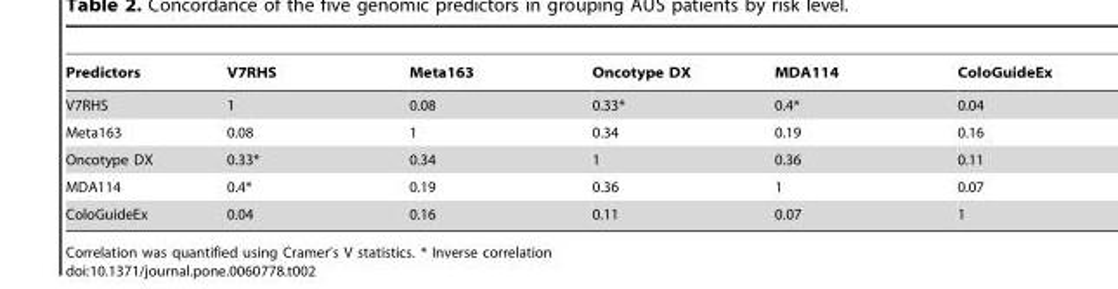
<table><thead><tr><td>Predictors</td><td>V7RHS</td><td>Meta163</td><td>Oncotype DX</td><td>MDA114</td><td>ColoGuideEx</td></tr></thead><tbody><tr><td>V7RHS</td><td>1</td><td>0.08</td><td>0.33*</td><td>0.4*</td><td>0.04</td></tr><tr><td>Meta163</td><td>0.08</td><td>1</td><td>0.34</td><td>0.19</td><td>0.16</td></tr><tr><td>Oncotype DX</td><td>0.33*</td><td>0.34</td><td>1</td><td>0.36</td><td>0.11</td></tr><tr><td>MDA114</td><td>0.4*</td><td>0.19</td><td>0.36</td><td>1</td><td>0.07</td></tr><tr><td>ColoGuideEx</td><td>0.04</td><td>0.16</td><td>0.11</td><td>0.07</td><td>1</td></tr></tbody></table>